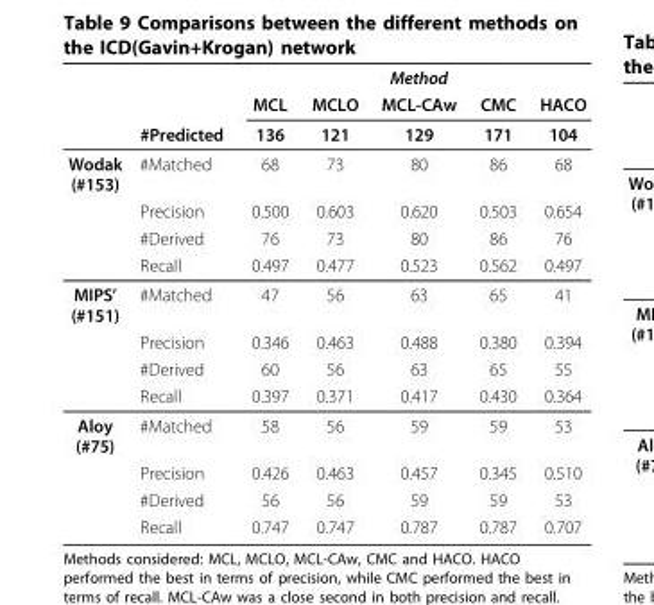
<table><thead><tr><td rowspan="3"></td><td rowspan="3">#Predicted</td><td colspan="5">Method</td></tr><tr><td rowspan="2">MCL 136</td><td rowspan="2">MCLO 121</td><td rowspan="2">MCL-CAw 129</td><td rowspan="2">CMC 171</td><td rowspan="2">HACO 104</td></tr><tr></tr></thead><tbody><tr><td rowspan="4">Wodak (#153)</td><td>#Matched</td><td>68</td><td>73</td><td>80</td><td>86</td><td>68</td></tr><tr><td>Precision</td><td>0.500</td><td>0.603</td><td>0.620</td><td>0.503</td><td>0.654</td></tr><tr><td>#Derived</td><td>76</td><td>73</td><td>80</td><td>86</td><td>76</td></tr><tr><td>Recall</td><td>0.497</td><td>0.477</td><td>0.523</td><td>0.562</td><td>0.497</td></tr><tr><td rowspan="4">MIPS’ (#151)</td><td>#Matched</td><td>47</td><td>56</td><td>63</td><td>65</td><td>41</td></tr><tr><td>Precision</td><td>0.346</td><td>0.463</td><td>0.488</td><td>0.380</td><td>0.394</td></tr><tr><td>#Derived</td><td>60</td><td>56</td><td>63</td><td>65</td><td>55</td></tr><tr><td>Recall</td><td>0.397</td><td>0.371</td><td>0.417</td><td>0.430</td><td>0.364</td></tr><tr><td rowspan="4">Aloy (#75)</td><td>#Matched</td><td>58</td><td>56</td><td>59</td><td>59</td><td>53</td></tr><tr><td>Precision</td><td>0.426</td><td>0.463</td><td>0.457</td><td>0.345</td><td>0.510</td></tr><tr><td>#Derived</td><td>56</td><td>56</td><td>59</td><td>59</td><td>53</td></tr><tr><td>Recall</td><td>0.747</td><td>0.747</td><td>0.787</td><td>0.787</td><td>0.707</td></tr></tbody></table>